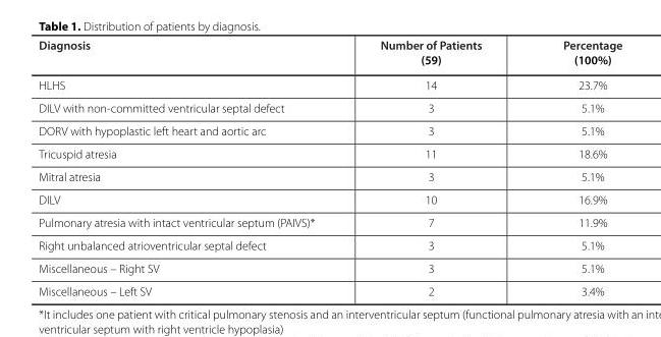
<table><thead><tr><td>Diagnosis</td><td>Number of Patients (59)</td><td>Percentage (100%)</td></tr></thead><tbody><tr><td>HLHS</td><td>14</td><td>23.7%</td></tr><tr><td>DILV with non-committed ventricular septal defect</td><td>3</td><td>5.1%</td></tr><tr><td>DORV with hypoplastic left heart and aortic arc</td><td>3</td><td>5.1%</td></tr><tr><td>Tricuspid atresia</td><td>11</td><td>18.6%</td></tr><tr><td>Mitral atresia</td><td>3</td><td>5.1%</td></tr><tr><td>DILV</td><td>10</td><td>16.9%</td></tr><tr><td>Pulmonary atresia with intact ventricular septum (PAIVS)*</td><td>7</td><td>11.9%</td></tr><tr><td>Right unbalanced atrioventricular septal defect</td><td>3</td><td>5.1%</td></tr><tr><td>Miscellaneous – Right SV</td><td>3</td><td>5.1%</td></tr><tr><td>Miscellaneous – Left SV</td><td>2</td><td>3.4%</td></tr></tbody></table>